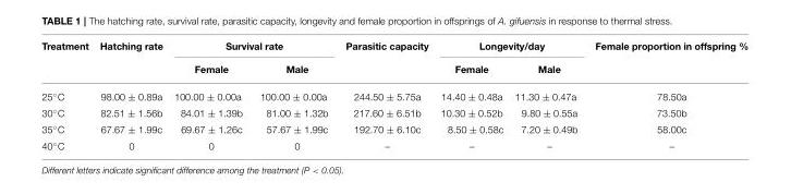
<table><thead><tr><td rowspan="2">Treatment</td><td rowspan="2">Hatching rate</td><td colspan="2">Survival rate</td><td rowspan="2">Parasitic capacity</td><td colspan="2">Longevity/day</td><td rowspan="2">Female proportion in offspring %</td></tr><tr><td>Female</td><td>Male</td><td>Female</td><td>Male</td></tr></thead><tbody><tr><td>25◦C</td><td>98.00 ± 0.89a</td><td>100.00 ± 0.00a</td><td>100.00 ± 0.00a</td><td>244.50 ± 5.75a</td><td>14.40 ± 0.48a</td><td>11.30 ± 0.47a</td><td>78.50a</td></tr><tr><td>30◦C</td><td>82.51 ± 1.56b</td><td>84.01 ± 1.39b</td><td>81.00 ± 1.32b</td><td>217.60 ± 6.51b</td><td>10.30 ± 0.52b</td><td>9.80 ± 0.55a</td><td>73.50b</td></tr><tr><td>35◦C</td><td>67.67 ± 1.99c</td><td>69.67 ± 1.26c</td><td>57.67 ± 1.99c</td><td>192.70 ± 6.10c</td><td>8.50 ± 0.58c</td><td>7.20 ± 0.49b</td><td>58.00c</td></tr><tr><td>40◦C</td><td>0</td><td>0</td><td>0</td><td>–</td><td>–</td><td>–</td><td>–</td></tr></tbody></table>